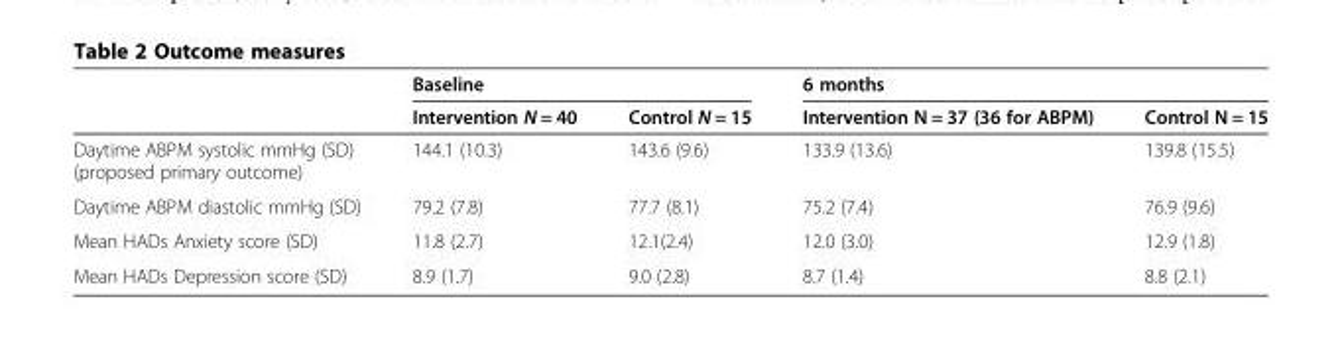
<table><thead><tr><td rowspan="2"></td><td colspan="2">Baseline</td><td colspan="2">6 months</td></tr><tr><td>Intervention N = 40</td><td>Control N = 15</td><td>Intervention N = 37 (36 for ABPM)</td><td>Control N = 15</td></tr></thead><tbody><tr><td>Daytime ABPM systolic mmHg (SD) (proposed primary outcome)</td><td>144.1 (10.3)</td><td>143.6 (9.6)</td><td>133.9 (13.6)</td><td>139.8 (15.5)</td></tr><tr><td>Daytime ABPM diastolic mmHg (SD)</td><td>79.2 (7.8)</td><td>77.7 (8.1)</td><td>75.2 (7.4)</td><td>76.9 (9.6)</td></tr><tr><td>Mean HADs Anxiety score (SD)</td><td>11.8 (2.7)</td><td>12.1(2.4)</td><td>12.0 (3.0)</td><td>12.9 (1.8)</td></tr><tr><td>Mean HADs Depression score (SD)</td><td>8.9 (1.7)</td><td>9.0 (2.8)</td><td>8.7 (1.4)</td><td>8.8 (2.1)</td></tr></tbody></table>